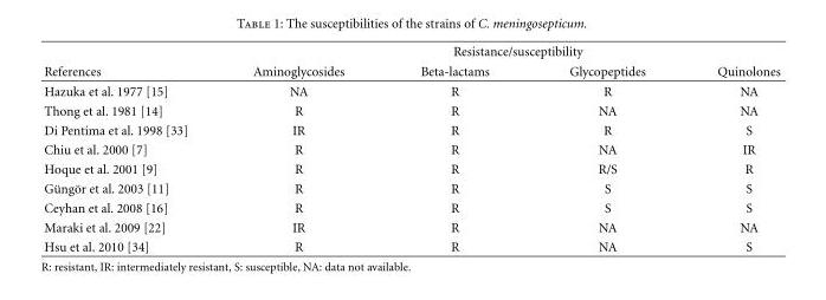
<table><thead><tr><td rowspan="2">References</td><td colspan="4">Resistance/susceptibility</td></tr><tr><td>Aminoglycosides</td><td>Beta-lactams</td><td>Glycopeptides</td><td>Quinolones</td></tr></thead><tbody><tr><td>Hazuka et al. 1977 [15]</td><td>NA</td><td>R</td><td>R</td><td>NA</td></tr><tr><td>Thong et al. 1981 [14]</td><td>R</td><td>R</td><td>NA</td><td>NA</td></tr><tr><td>Di Pentima et al. 1998 [33]</td><td>IR</td><td>R</td><td>R</td><td>S</td></tr><tr><td>Chiu et al. 2000 [7]</td><td>R</td><td>R</td><td>NA</td><td>IR</td></tr><tr><td>Hoque et al. 2001 [9]</td><td>R</td><td>R</td><td>R/S</td><td>R</td></tr><tr><td>G¨ung¨or et al. 2003 [11]</td><td>R</td><td>R</td><td>S</td><td>S</td></tr><tr><td>Ceyhan et al. 2008 [16]</td><td>R</td><td>R</td><td>S</td><td>S</td></tr><tr><td>Maraki et al. 2009 [22]</td><td>IR</td><td>R</td><td>NA</td><td>NA</td></tr><tr><td>Hsu et al. 2010 [34]</td><td>R</td><td>R</td><td>NA</td><td>S</td></tr></tbody></table>